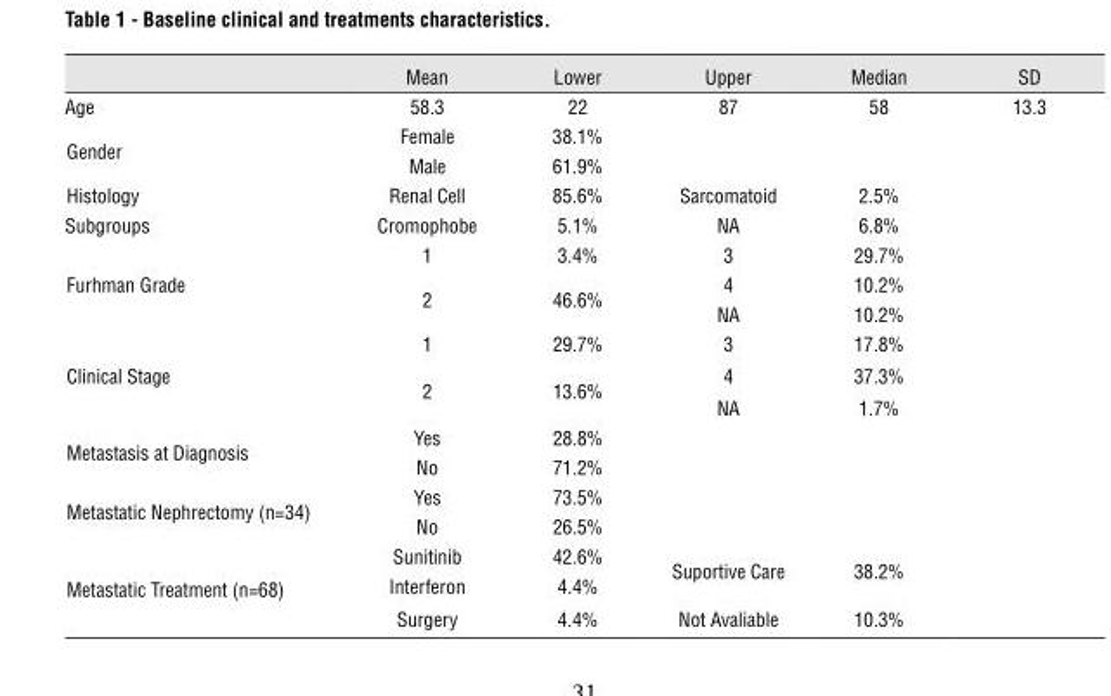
<table><thead><tr><td></td><td>Mean</td><td>Lower</td><td>Upper</td><td>Median</td><td>SD</td></tr></thead><tbody><tr><td>Age</td><td>58.3</td><td>22</td><td>87</td><td>58</td><td>13.3</td></tr><tr><td rowspan="2">Gender</td><td>Female</td><td>38.1%</td><td></td><td></td><td></td></tr><tr><td>Male</td><td>61.9%</td><td></td><td></td><td></td></tr><tr><td>Histology</td><td>Renal Cell</td><td>85.6%</td><td>Sarcomatoid</td><td>2.5%</td><td></td></tr><tr><td>Subgroups</td><td>Cromophobe</td><td>5.1%</td><td>NA</td><td>6.8%</td><td></td></tr><tr><td rowspan="3">Furhman Grade</td><td>1</td><td>3.4%</td><td>3</td><td>29.7%</td><td></td></tr><tr><td rowspan="2">2</td><td rowspan="2">46.6%</td><td>4</td><td>10.2%</td><td rowspan="2"></td></tr><tr><td>NA</td><td>10.2%</td></tr><tr><td rowspan="3">Clinical Stage</td><td>1</td><td>29.7%</td><td>3</td><td>17.8%</td><td></td></tr><tr><td rowspan="2">2</td><td rowspan="2">13.6%</td><td>4</td><td>37.3%</td><td></td></tr><tr><td>NA</td><td>1.7%</td><td></td></tr><tr><td rowspan="2">Metastasis at Diagnosis</td><td>Yes</td><td>28.8%</td><td></td><td></td><td></td></tr><tr><td>No</td><td>71.2%</td><td></td><td></td><td></td></tr><tr><td rowspan="2">Metastatic Nephrectomy (n=34)</td><td>Yes</td><td>73.5%</td><td></td><td></td><td></td></tr><tr><td>No</td><td>26.5%</td><td></td><td></td><td></td></tr><tr><td rowspan="3">Metastatic Treatment (n=68)</td><td>Sunitinib</td><td>42.6%</td><td rowspan="2">Suportive Care</td><td rowspan="2">38.2%</td><td></td></tr><tr><td>Interferon</td><td>4.4%</td><td></td></tr><tr><td>Surgery</td><td>4.4%</td><td>Not Avaliable</td><td>10.3%</td><td></td></tr></tbody></table>